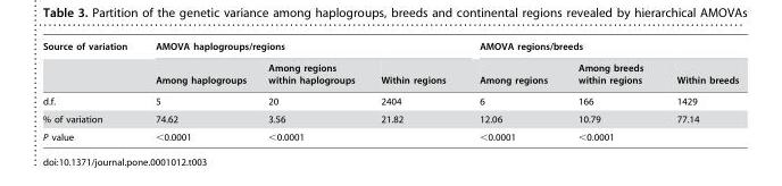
<table><thead><tr><td rowspan="2">Source of variation</td><td colspan="3">AMOVA haplogroups/regions</td><td colspan="3">AMOVA regions/breeds</td></tr><tr><td>Among haplogroups</td><td>Among regions within haplogroups</td><td>Within regions</td><td>Among regions</td><td>Among breeds within regions</td><td>Within breeds</td></tr></thead><tbody><tr><td>d.f.</td><td>5</td><td>20</td><td>2404</td><td>6</td><td>166</td><td>1429</td></tr><tr><td>% of variation</td><td>74.62</td><td>3.56</td><td>21.82</td><td>12.06</td><td>10.79</td><td>77.14</td></tr><tr><td>P value</td><td>&lt;0.0001</td><td>&lt;0.0001</td><td></td><td>&lt;0.0001</td><td>&lt;0.0001</td><td></td></tr></tbody></table>